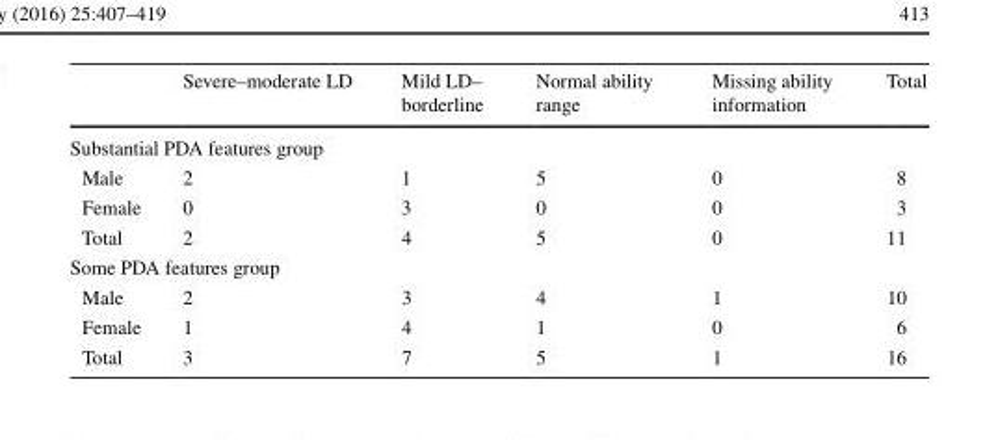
<table><thead><tr><td></td><td>Severe–moderate LD</td><td>Mild LD– borderline</td><td>Normal ability range</td><td>Missing ability information</td><td>Total</td></tr></thead><tbody><tr><td colspan="6">Substantial PDA features group</td></tr><tr><td>Male</td><td>2</td><td>1</td><td>5</td><td>0</td><td>8</td></tr><tr><td>Female</td><td>0</td><td>3</td><td>0</td><td>0</td><td>3</td></tr><tr><td>Total</td><td>2</td><td>4</td><td>5</td><td>0</td><td>11</td></tr><tr><td colspan="6">Some PDA features group</td></tr><tr><td>Male</td><td>2</td><td>3</td><td>4</td><td>1</td><td>10</td></tr><tr><td>Female</td><td>1</td><td>4</td><td>1</td><td>0</td><td>6</td></tr><tr><td>Total</td><td>3</td><td>7</td><td>5</td><td>1</td><td>16</td></tr></tbody></table>